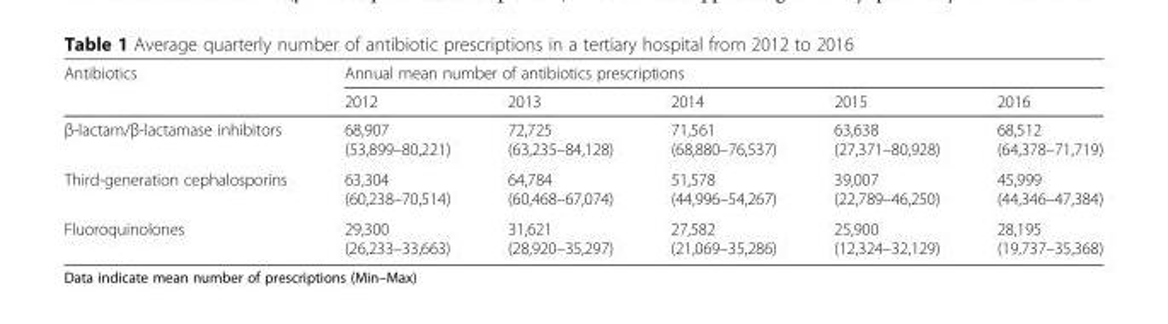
<table><thead><tr><td rowspan="2">Antibiotics</td><td colspan="5">Annual mean number of antibiotics prescriptions</td></tr><tr><td>2012</td><td>2013</td><td>2014</td><td>2015</td><td>2016</td></tr></thead><tbody><tr><td>β-lactam/β-lactamase inhibitors</td><td>68,907 (53,899–80,221)</td><td>72,725 (63,235–84,128)</td><td>71,561 (68,880–76,537)</td><td>63,638 (27,371–80,928)</td><td>68,512 (64,378–71,719)</td></tr><tr><td>Third-generation cephalosporins</td><td>63,304 (60,238–70,514)</td><td>64,784 (60,468–67,074)</td><td>51,578 (44,996–54,267)</td><td>39,007 (22,789–46,250)</td><td>45,999 (44,346–47,384)</td></tr><tr><td>Fluoroquinolones</td><td>29,300 (26,233–33,663)</td><td>31,621 (28,920–35,297)</td><td>27,582 (21,069–35,286)</td><td>25,900 (12,324–32,129)</td><td>28,195 (19,737–35,368)</td></tr></tbody></table>